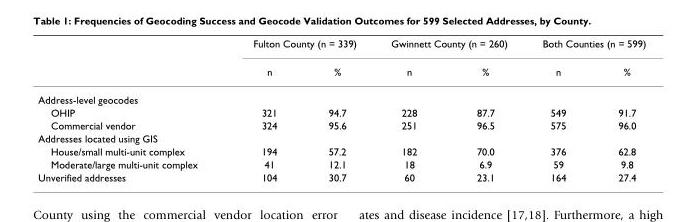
<table><thead><tr><td rowspan="2"></td><td colspan="2">Fulton County (n = 339)</td><td colspan="2">Gwinnett County (n = 260)</td><td colspan="2">Both Counties (n = 599)</td></tr><tr><td>n</td><td>%</td><td>n</td><td>%</td><td>n</td><td>%</td></tr></thead><tbody><tr><td colspan="7">Address-level geocodes</td></tr><tr><td>OHIP</td><td>321</td><td>94.7</td><td>228</td><td>87.7</td><td>549</td><td>91.7</td></tr><tr><td>Commercial vendor</td><td>324</td><td>95.6</td><td>251</td><td>96.5</td><td>575</td><td>96.0</td></tr><tr><td colspan="7">Addresses located using GIS</td></tr><tr><td>House/small multi-unit complex</td><td>194</td><td>57.2</td><td>182</td><td>70.0</td><td>376</td><td>62.8</td></tr><tr><td>Moderate/large multi-unit complex</td><td>41</td><td>12.1</td><td>18</td><td>6.9</td><td>59</td><td>9.8</td></tr><tr><td>Unverified addresses</td><td>104</td><td>30.7</td><td>60</td><td>23.1</td><td>164</td><td>27.4</td></tr></tbody></table>